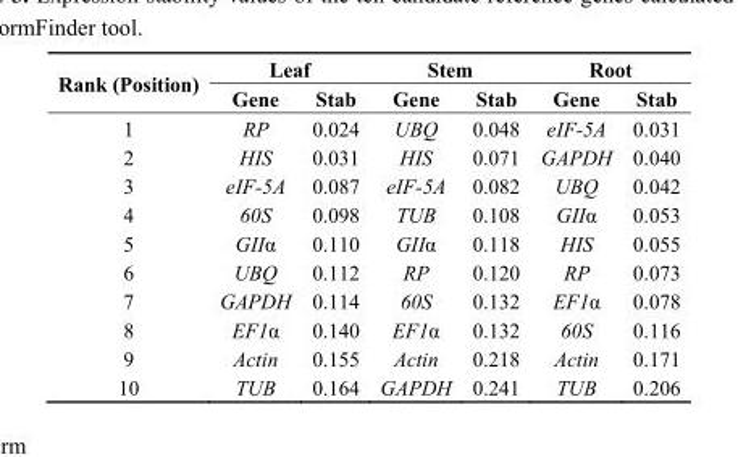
<table><thead><tr><td rowspan="2">Rank (Position)</td><td colspan="2">Leaf</td><td colspan="2">Stem</td><td colspan="2">Root</td></tr><tr><td>Gene</td><td>Stab</td><td>Gene</td><td>Stab</td><td>Gene</td><td>Stab</td></tr></thead><tbody><tr><td>1</td><td>RP</td><td>0.024</td><td>UBQ</td><td>0.048</td><td>eIF-5A</td><td>0.031</td></tr><tr><td>2</td><td>HIS</td><td>0.031</td><td>HIS</td><td>0.071</td><td>GAPDH</td><td>0.040</td></tr><tr><td>3</td><td>eIF-5A</td><td>0.087</td><td>eIF-5A</td><td>0.082</td><td>UBQ</td><td>0.042</td></tr><tr><td>4</td><td>60S</td><td>0.098</td><td>TUB</td><td>0.108</td><td>GIIα</td><td>0.053</td></tr><tr><td>5</td><td>GIIα</td><td>0.110</td><td>GIIα</td><td>0.118</td><td>HIS</td><td>0.055</td></tr><tr><td>6</td><td>UBQ</td><td>0.112</td><td>RP</td><td>0.120</td><td>RP</td><td>0.073</td></tr><tr><td>7</td><td>GAPDH</td><td>0.114</td><td>60S</td><td>0.132</td><td>EF1α</td><td>0.078</td></tr><tr><td>8</td><td>EF1α</td><td>0.140</td><td>EF1α</td><td>0.132</td><td>60S</td><td>0.116</td></tr><tr><td>9</td><td>Actin</td><td>0.155</td><td>Actin</td><td>0.218</td><td>Actin</td><td>0.171</td></tr><tr><td>10</td><td>TUB</td><td>0.164</td><td>GAPDH</td><td>0.241</td><td>TUB</td><td>0.206</td></tr></tbody></table>